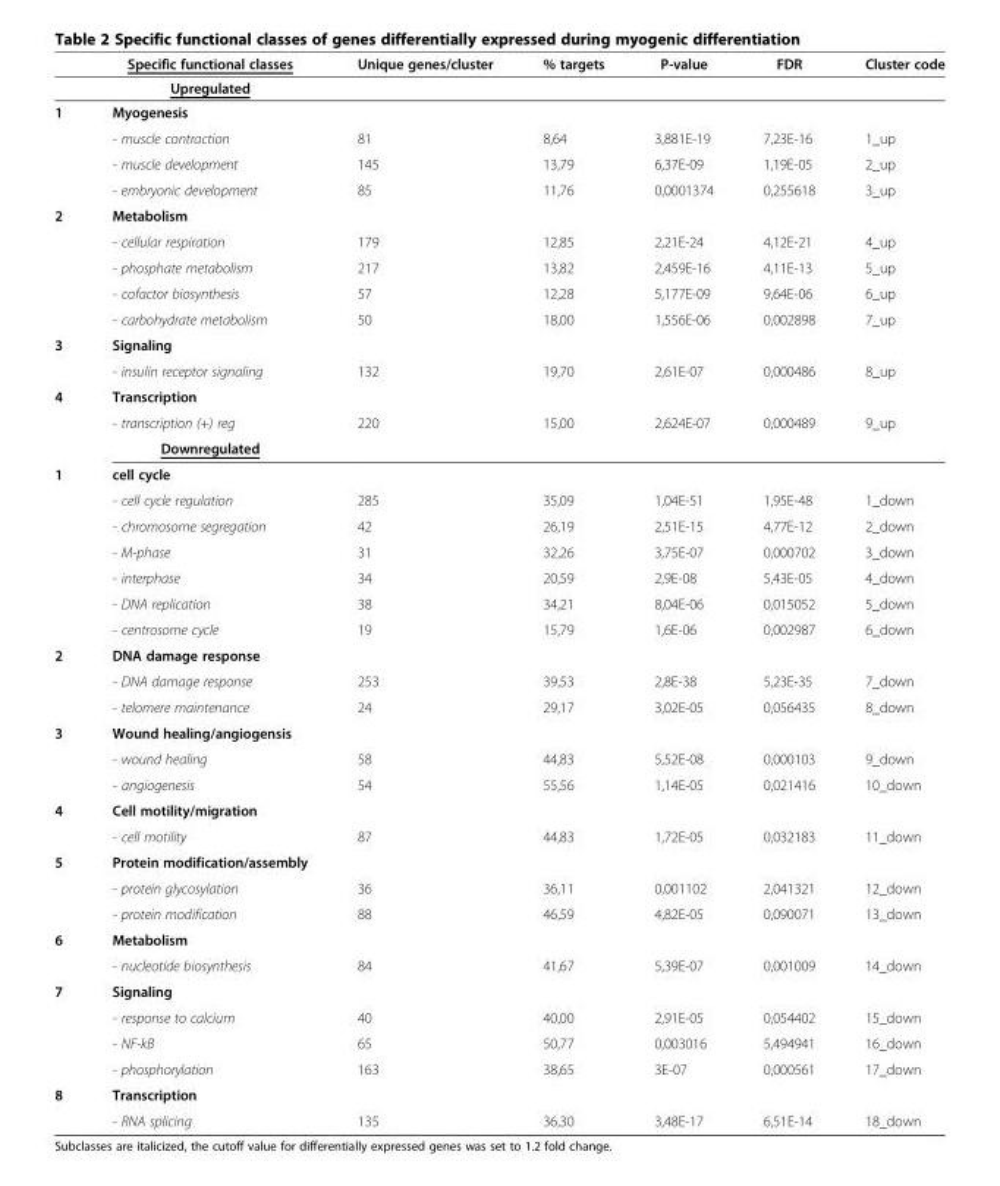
<table><thead><tr><td></td><td>Specific functional classes</td><td>Unique genes/cluster</td><td>% targets</td><td>P-value</td><td>FDR</td><td>Cluster code</td></tr></thead><tbody><tr><td></td><td>Upregulated</td><td></td><td></td><td></td><td></td><td></td></tr><tr><td rowspan="4">1</td><td>Myogenesis</td><td></td><td></td><td></td><td></td><td></td></tr><tr><td>- muscle contraction</td><td>81</td><td>8,64</td><td>3,881E-19</td><td>7,23E-16</td><td>1_up</td></tr><tr><td>- muscle development</td><td>145</td><td>13,79</td><td>6,37E-09</td><td>1,19E-05</td><td>2_up</td></tr><tr><td>- embryonic development</td><td>85</td><td>11,76</td><td>0,0001374</td><td>0,255618</td><td>3_up</td></tr><tr><td rowspan="5">2</td><td>Metabolism</td><td></td><td></td><td></td><td></td><td></td></tr><tr><td>- cellular respiration</td><td>179</td><td>12,85</td><td>2,21E-24</td><td>4,12E-21</td><td>4_up</td></tr><tr><td>- phosphate metabolism</td><td>217</td><td>13,82</td><td>2,459E-16</td><td>4,11E-13</td><td>5_up</td></tr><tr><td>- cofactor biosynthesis</td><td>57</td><td>12,28</td><td>5,177E-09</td><td>9,64E-06</td><td>6_up</td></tr><tr><td>- carbohydrate metabolism</td><td>50</td><td>18,00</td><td>1,556E-06</td><td>0,002898</td><td>7_up</td></tr><tr><td rowspan="2">3</td><td>Signaling</td><td></td><td></td><td></td><td></td><td></td></tr><tr><td>- insulin receptor signaling</td><td>132</td><td>19,70</td><td>2,61E-07</td><td>0,000486</td><td>8_up</td></tr><tr><td rowspan="3">4</td><td>Transcription</td><td></td><td></td><td></td><td></td><td></td></tr><tr><td>- transcription (+) reg</td><td>220</td><td>15,00</td><td>2,624E-07</td><td>0,000489</td><td>9_up</td></tr><tr><td>Downregulated</td><td></td><td></td><td></td><td></td><td></td></tr><tr><td rowspan="7">1</td><td>cell cycle</td><td></td><td></td><td></td><td></td><td></td></tr><tr><td>- cell cycle regulation</td><td>285</td><td>35,09</td><td>1,04E-51</td><td>1,95E-48</td><td>1_down</td></tr><tr><td>- chromosome segregation</td><td>42</td><td>26,19</td><td>2,51E-15</td><td>4,77E-12</td><td>2_down</td></tr><tr><td>- M-phase</td><td>31</td><td>32,26</td><td>3,75E-07</td><td>0,000702</td><td>3_down</td></tr><tr><td>- interphase</td><td>34</td><td>20,59</td><td>2,9E-08</td><td>5,43E-05</td><td>4_down</td></tr><tr><td>- DNA replication</td><td>38</td><td>34,21</td><td>8,04E-06</td><td>0,015052</td><td>5_down</td></tr><tr><td>- centrosome cycle</td><td>19</td><td>15,79</td><td>1,6E-06</td><td>0,002987</td><td>6_down</td></tr><tr><td rowspan="3">2</td><td>DNA damage response</td><td></td><td></td><td></td><td></td><td></td></tr><tr><td>- DNA damage response</td><td>253</td><td>39,53</td><td>2,8E-38</td><td>5,23E-35</td><td>7_down</td></tr><tr><td>- telomere maintenance</td><td>24</td><td>29,17</td><td>3,02E-05</td><td>0,056435</td><td>8_down</td></tr><tr><td rowspan="3">3</td><td>Wound healing/angiogensis</td><td></td><td></td><td></td><td></td><td></td></tr><tr><td>- wound healing</td><td>58</td><td>44,83</td><td>5,52E-08</td><td>0,000103</td><td>9_down</td></tr><tr><td>- angiogenesis</td><td>54</td><td>55,56</td><td>1,14E-05</td><td>0,021416</td><td>10_down</td></tr><tr><td rowspan="2">4</td><td>Cell motility/migration</td><td></td><td></td><td></td><td></td><td></td></tr><tr><td>- cell motility</td><td>87</td><td>44,83</td><td>1,72E-05</td><td>0,032183</td><td>11_down</td></tr><tr><td rowspan="3">5</td><td>Protein modification/assembly</td><td></td><td></td><td></td><td></td><td></td></tr><tr><td>- protein glycosylation</td><td>36</td><td>36,11</td><td>0,001102</td><td>2,041321</td><td>12_down</td></tr><tr><td>- protein modification</td><td>88</td><td>46,59</td><td>4,82E-05</td><td>0,090071</td><td>13_down</td></tr><tr><td rowspan="2">6</td><td>Metabolism</td><td></td><td></td><td></td><td></td><td></td></tr><tr><td>- nucleotide biosynthesis</td><td>84</td><td>41,67</td><td>5,39E-07</td><td>0,001009</td><td>14_down</td></tr><tr><td rowspan="4">7</td><td>Signaling</td><td></td><td></td><td></td><td></td><td></td></tr><tr><td>- response to calcium</td><td>40</td><td>40,00</td><td>2,91E-05</td><td>0,054402</td><td>15_down</td></tr><tr><td>- NF-kB</td><td>65</td><td>50,77</td><td>0,003016</td><td>5,494941</td><td>16_down</td></tr><tr><td>- phosphorylation</td><td>163</td><td>38,65</td><td>3E-07</td><td>0,000561</td><td>17_down</td></tr><tr><td rowspan="2">8</td><td>Transcription</td><td></td><td></td><td></td><td></td><td></td></tr><tr><td>- RNA splicing</td><td>135</td><td>36,30</td><td>3,48E-17</td><td>6,51E-14</td><td>18_down</td></tr></tbody></table>